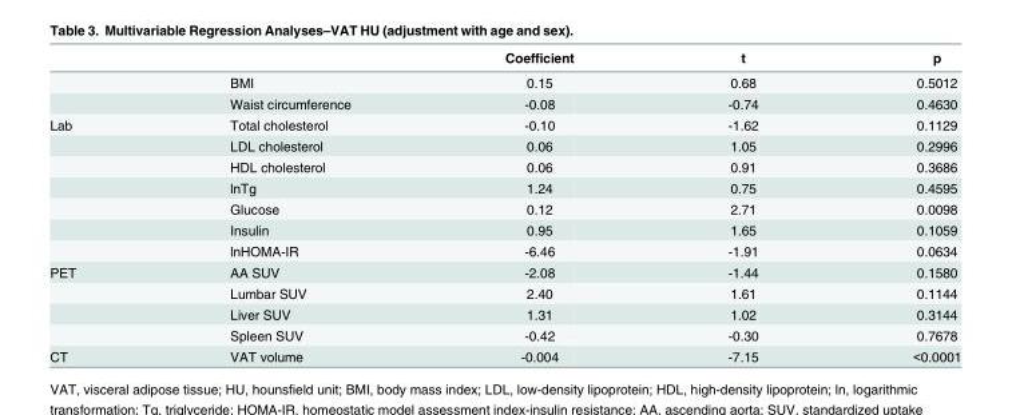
<table><thead><tr><td></td><td></td><td>Coefficient</td><td>t</td><td>p</td></tr></thead><tbody><tr><td></td><td>BMI</td><td>0.15</td><td>0.68</td><td>0.5012</td></tr><tr><td></td><td>Waist circumference</td><td>-0.08</td><td>-0.74</td><td>0.4630</td></tr><tr><td rowspan="7">Lab</td><td>Total cholesterol</td><td>-0.10</td><td>-1.62</td><td>0.1129</td></tr><tr><td>LDL cholesterol</td><td>0.06</td><td>1.05</td><td>0.2996</td></tr><tr><td>HDL cholesterol</td><td>0.06</td><td>0.91</td><td>0.3686</td></tr><tr><td>lnTg</td><td>1.24</td><td>0.75</td><td>0.4595</td></tr><tr><td>Glucose</td><td>0.12</td><td>2.71</td><td>0.0098</td></tr><tr><td>Insulin</td><td>0.95</td><td>1.65</td><td>0.1059</td></tr><tr><td>lnHOMA-IR</td><td>-6.46</td><td>-1.91</td><td>0.0634</td></tr><tr><td rowspan="4">PET</td><td>AA SUV</td><td>-2.08</td><td>-1.44</td><td>0.1580</td></tr><tr><td>Lumbar SUV</td><td>2.40</td><td>1.61</td><td>0.1144</td></tr><tr><td>Liver SUV</td><td>1.31</td><td>1.02</td><td>0.3144</td></tr><tr><td>Spleen SUV</td><td>-0.42</td><td>-0.30</td><td>0.7678</td></tr><tr><td>CT</td><td>VAT volume</td><td>-0.004</td><td>-7.15</td><td>&lt;0.0001</td></tr></tbody></table>